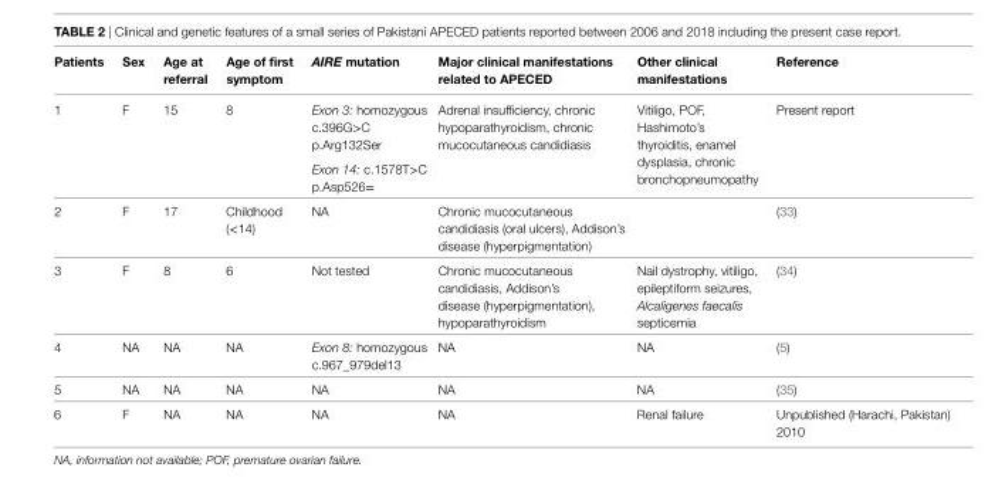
<table><thead><tr><td>patients</td><td>sex</td><td>age at referral</td><td>age of first symptom</td><td>AIRE mutation</td><td>Major clinical manifestations related to apeCeD</td><td>other clinical manifestations</td><td>Reference</td></tr></thead><tbody><tr><td rowspan="2">1</td><td rowspan="2">F</td><td rowspan="2">15</td><td rowspan="2">8</td><td>Exon 3: homozygous c.396G&gt;C p.Arg132Ser</td><td rowspan="2">Adrenal insufficiency, chronic hypoparathyroidism, chronic mucocutaneous candidiasis</td><td rowspan="2">Vitiligo, POF, Hashimoto’s thyroiditis, enamel dysplasia, chronic bronchopneumopathy</td><td rowspan="2">Present report</td></tr><tr><td>Exon 14: c.1578T&gt;C p.Asp526=</td></tr><tr><td>2</td><td>F</td><td>17</td><td>Childhood (&lt;14)</td><td>NA</td><td>Chronic mucocutaneous candidiasis (oral ulcers), Addison’s disease (hyperpigmentation)</td><td></td><td>(33)</td></tr><tr><td>3</td><td>F</td><td>8</td><td>6</td><td>Not tested</td><td>Chronic mucocutaneous candidiasis, Addison’s disease (hyperpigmentation), hypoparathyroidism</td><td>Nail dystrophy, vitiligo, epileptiform seizures, Alcaligenes faecalis septicemia</td><td>(34)</td></tr><tr><td>4</td><td>NA</td><td>NA</td><td>NA</td><td>Exon 8: homozygous c.967_979del13</td><td>NA</td><td>NA</td><td>(5)</td></tr><tr><td>5</td><td>NA</td><td>NA</td><td>NA</td><td>NA</td><td>NA</td><td>NA</td><td>(35)</td></tr><tr><td>6</td><td>F</td><td>NA</td><td>NA</td><td>NA</td><td>NA</td><td>Renal failure</td><td>Unpublished (Harachi, Pakistan) 2010</td></tr></tbody></table>